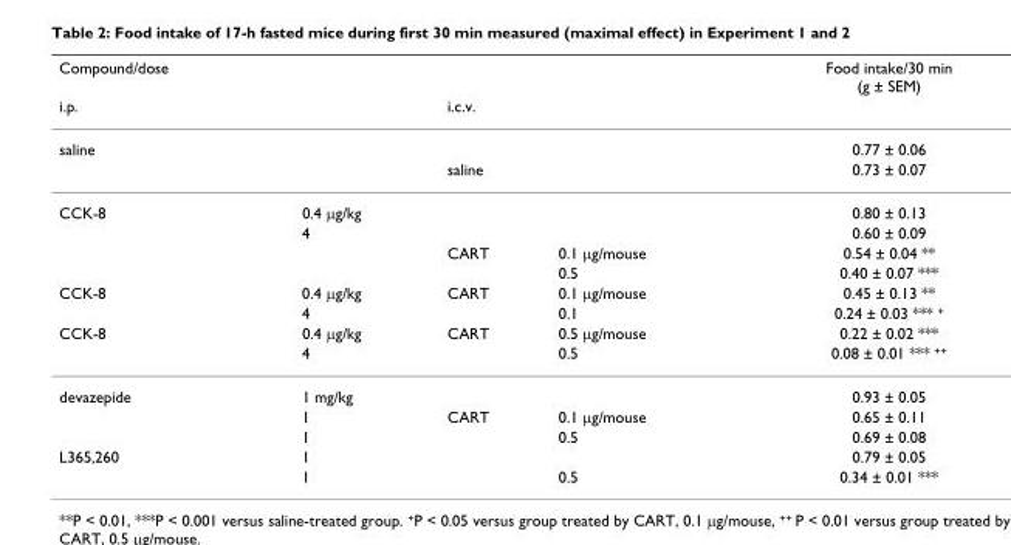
<table><thead><tr><td rowspan="2">Compound/dose i.p.</td><td rowspan="2"></td><td rowspan="2">i.c.v.</td><td rowspan="2"></td><td rowspan="2">Food intake/30 min (g ± SEM)</td></tr><tr></tr></thead><tbody><tr><td rowspan="2">saline</td><td></td><td></td><td></td><td>0.77 ± 0.06</td></tr><tr><td></td><td>saline</td><td></td><td>0.73 ± 0.07</td></tr><tr><td rowspan="4">CCK-8</td><td>0.4 μg/kg</td><td></td><td></td><td>0.80 ± 0.13</td></tr><tr><td>4</td><td></td><td></td><td>0.60 ± 0.09</td></tr><tr><td></td><td>CART</td><td>0.1 μg/mouse</td><td>0.54 ± 0.04 **</td></tr><tr><td></td><td></td><td>0.5</td><td>0.40 ± 0.07 ***</td></tr><tr><td rowspan="2">CCK-8</td><td>0.4 μg/kg</td><td>CART</td><td>0.1 μg/mouse</td><td>0.45 ± 0.13 **</td></tr><tr><td>4</td><td></td><td>0.1</td><td>0.24 ± 0.03 *** <sup>+</sup></td></tr><tr><td rowspan="2">CCK-8</td><td>0.4 μg/kg</td><td>CART</td><td>0.5 μg/mouse</td><td>0.22 ± 0.02 ***</td></tr><tr><td>4</td><td></td><td>0.5</td><td>0.08 ± 0.01 *** <sup>++</sup></td></tr><tr><td rowspan="3">devazepide</td><td>1 mg/kg</td><td></td><td></td><td>0.93 ± 0.05</td></tr><tr><td>1</td><td>CART</td><td>0.1 μg/mouse</td><td>0.65 ± 0.11</td></tr><tr><td>1</td><td></td><td>0.5</td><td>0.69 ± 0.08</td></tr><tr><td rowspan="2">L365,260</td><td>1</td><td></td><td></td><td>0.79 ± 0.05</td></tr><tr><td>1</td><td></td><td>0.5</td><td>0.34 ± 0.01 ***</td></tr></tbody></table>